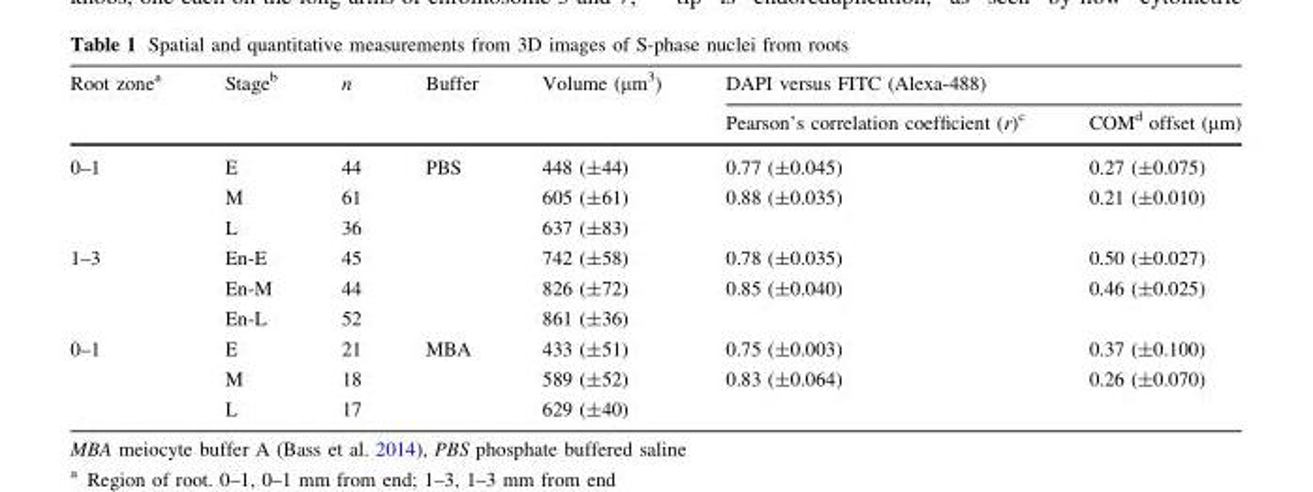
<table><thead><tr><td rowspan="2">Root zone<sup>a</sup></td><td rowspan="2">Stage<sup>b</sup></td><td rowspan="2">n</td><td rowspan="2">Buffer</td><td rowspan="2">Volume (µm<sup>3</sup>)</td><td colspan="2">DAPI versus FITC (Alexa-488)</td></tr><tr><td>Pearson’s correlation coefficient (r)<sup>c</sup></td><td>COM<sup>d</sup> offset (µm)</td></tr></thead><tbody><tr><td rowspan="3">0–1</td><td>E</td><td>44</td><td rowspan="6">PBS</td><td>448 (±44)</td><td>0.77 (±0.045)</td><td>0.27 (±0.075)</td></tr><tr><td>M</td><td>61</td><td>605 (±61)</td><td>0.88 (±0.035)</td><td>0.21 (±0.010)</td></tr><tr><td>L</td><td>36</td><td>637 (±83)</td><td></td><td></td></tr><tr><td rowspan="3">1–3</td><td>En-E</td><td>45</td><td>742 (±58)</td><td>0.78 (±0.035)</td><td>0.50 (±0.027)</td></tr><tr><td>En-M</td><td>44</td><td>826 (±72)</td><td>0.85 (±0.040)</td><td>0.46 (±0.025)</td></tr><tr><td>En-L</td><td>52</td><td>861 (±36)</td><td></td><td></td></tr><tr><td rowspan="3">0–1</td><td>E</td><td>21</td><td rowspan="3">MBA</td><td>433 (±51)</td><td>0.75 (±0.003)</td><td>0.37 (±0.100)</td></tr><tr><td>M</td><td>18</td><td>589 (±52)</td><td>0.83 (±0.064)</td><td>0.26 (±0.070)</td></tr><tr><td>L</td><td>17</td><td>629 (±40)</td><td></td><td></td></tr></tbody></table>